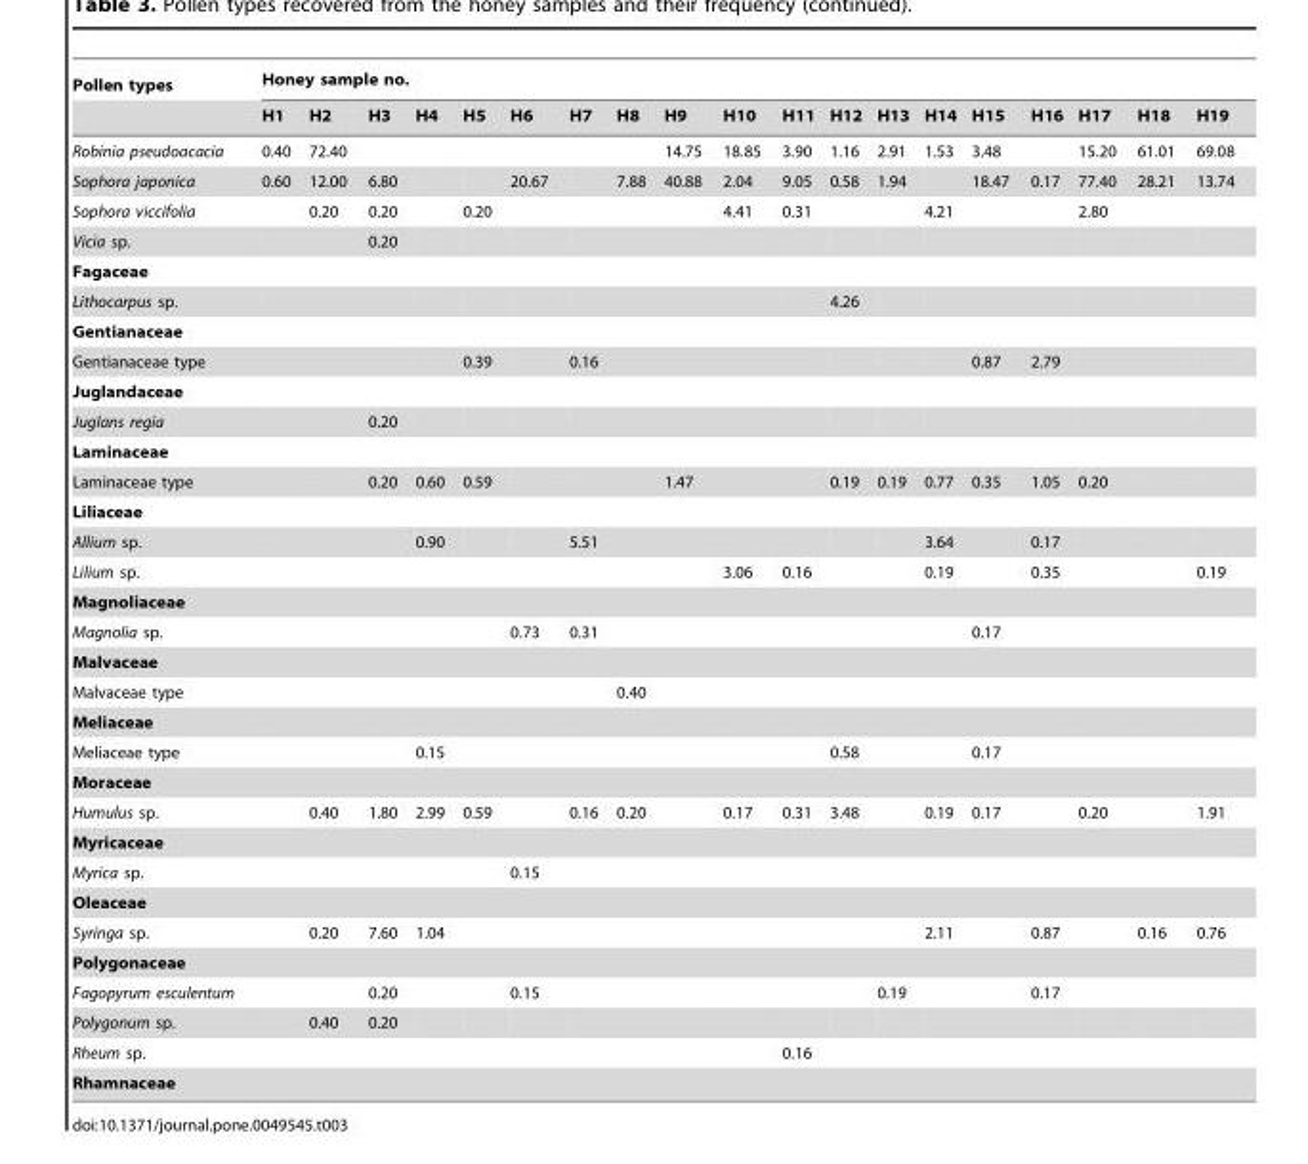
<table><thead><tr><td rowspan="2">Pollen types</td><td colspan="19">Honey sample no.</td></tr><tr><td>H1</td><td>H2</td><td>H3</td><td>H4</td><td>H5</td><td>H6</td><td>H7</td><td>H8</td><td>H9</td><td>H10</td><td>H11</td><td>H12</td><td>H13</td><td>H14</td><td>H15</td><td>H16</td><td>H17</td><td>H18</td><td>H19</td></tr></thead><tbody><tr><td>Robinia pseudoacacia</td><td>0.40</td><td>72.40</td><td></td><td></td><td></td><td></td><td></td><td></td><td>14.75</td><td>18.85</td><td>3.90</td><td>1.16</td><td>2.91</td><td>1.53</td><td>3.48</td><td></td><td>15.20</td><td>61.01</td><td>69.08</td></tr><tr><td>Sophora japonica</td><td>0.60</td><td>12.00</td><td>6.80</td><td></td><td></td><td>20.67</td><td></td><td>7.88</td><td>40.88</td><td>2.04</td><td>9.05</td><td>0.58</td><td>1.94</td><td></td><td>18.47</td><td>0.17</td><td>77.40</td><td>28.21</td><td>13.74</td></tr><tr><td>Sophora viccifolia</td><td></td><td>0.20</td><td>0.20</td><td></td><td>0.20</td><td></td><td></td><td></td><td></td><td>4.41</td><td>0.31</td><td></td><td></td><td>4.21</td><td></td><td></td><td>2.80</td><td></td><td></td></tr><tr><td>Vicia sp.</td><td></td><td></td><td>0.20</td><td></td><td></td><td></td><td></td><td></td><td></td><td></td><td></td><td></td><td></td><td></td><td></td><td></td><td></td><td></td><td></td></tr><tr><td colspan="20">Fagaceae</td></tr><tr><td>Lithocarpus sp.</td><td></td><td></td><td></td><td></td><td></td><td></td><td></td><td></td><td></td><td></td><td></td><td>4.26</td><td></td><td></td><td></td><td></td><td></td><td></td><td></td></tr><tr><td colspan="20">Gentianaceae</td></tr><tr><td>Gentianaceae type</td><td></td><td></td><td></td><td></td><td>0.39</td><td></td><td>0.16</td><td></td><td></td><td></td><td></td><td></td><td></td><td></td><td>0.87</td><td>2.79</td><td></td><td></td><td></td></tr><tr><td colspan="20">Juglandaceae</td></tr><tr><td>Juglans regia</td><td></td><td></td><td>0.20</td><td></td><td></td><td></td><td></td><td></td><td></td><td></td><td></td><td></td><td></td><td></td><td></td><td></td><td></td><td></td><td></td></tr><tr><td colspan="20">Laminaceae</td></tr><tr><td>Laminaceae type</td><td></td><td></td><td>0.20</td><td>0.60</td><td>0.59</td><td></td><td></td><td></td><td>1.47</td><td></td><td></td><td>0.19</td><td>0.19</td><td>0.77</td><td>0.35</td><td>1.05</td><td>0.20</td><td></td><td></td></tr><tr><td colspan="20">Liliaceae</td></tr><tr><td>Allium sp.</td><td></td><td></td><td></td><td>0.90</td><td></td><td></td><td>5.51</td><td></td><td></td><td></td><td></td><td></td><td></td><td>3.64</td><td></td><td>0.17</td><td></td><td></td><td></td></tr><tr><td>Lilium sp.</td><td></td><td></td><td></td><td></td><td></td><td></td><td></td><td></td><td></td><td>3.06</td><td>0.16</td><td></td><td></td><td>0.19</td><td></td><td>0.35</td><td></td><td></td><td>0.19</td></tr><tr><td colspan="20">Magnoliaceae</td></tr><tr><td>Magnolia sp.</td><td></td><td></td><td></td><td></td><td></td><td>0.73</td><td>0.31</td><td></td><td></td><td></td><td></td><td></td><td></td><td></td><td>0.17</td><td></td><td></td><td></td><td></td></tr><tr><td colspan="20">Malvaceae</td></tr><tr><td>Malvaceae type</td><td></td><td></td><td></td><td></td><td></td><td></td><td></td><td>0.40</td><td></td><td></td><td></td><td></td><td></td><td></td><td></td><td></td><td></td><td></td><td></td></tr><tr><td colspan="20">Meliaceae</td></tr><tr><td>Meliaceae type</td><td></td><td></td><td></td><td>0.15</td><td></td><td></td><td></td><td></td><td></td><td></td><td></td><td>0.58</td><td></td><td></td><td>0.17</td><td></td><td></td><td></td><td></td></tr><tr><td colspan="20">Moraceae</td></tr><tr><td>Humulus sp.</td><td></td><td>0.40</td><td>1.80</td><td>2.99</td><td>0.59</td><td></td><td>0.16</td><td>0.20</td><td></td><td>0.17</td><td>0.31</td><td>3.48</td><td></td><td>0.19</td><td>0.17</td><td></td><td>0.20</td><td></td><td>1.91</td></tr><tr><td colspan="20">Myricaceae</td></tr><tr><td>Myrica sp.</td><td></td><td></td><td></td><td></td><td></td><td>0.15</td><td></td><td></td><td></td><td></td><td></td><td></td><td></td><td></td><td></td><td></td><td></td><td></td><td></td></tr><tr><td colspan="20">Oleaceae</td></tr><tr><td>Syringa sp.</td><td></td><td>0.20</td><td>7.60</td><td>1.04</td><td></td><td></td><td></td><td></td><td></td><td></td><td></td><td></td><td></td><td>2.11</td><td></td><td>0.87</td><td></td><td>0.16</td><td>0.76</td></tr><tr><td colspan="20">Polygonaceae</td></tr><tr><td>Fagopyrum esculentum</td><td></td><td></td><td>0.20</td><td></td><td></td><td>0.15</td><td></td><td></td><td></td><td></td><td></td><td></td><td>0.19</td><td></td><td></td><td>0.17</td><td></td><td></td><td></td></tr><tr><td>Polygonum sp.</td><td></td><td>0.40</td><td>0.20</td><td></td><td></td><td></td><td></td><td></td><td></td><td></td><td></td><td></td><td></td><td></td><td></td><td></td><td></td><td></td><td></td></tr><tr><td>Rheum sp.</td><td></td><td></td><td></td><td></td><td></td><td></td><td></td><td></td><td></td><td></td><td>0.16</td><td></td><td></td><td></td><td></td><td></td><td></td><td></td><td></td></tr><tr><td colspan="20">Rhamnaceae</td></tr></tbody></table>